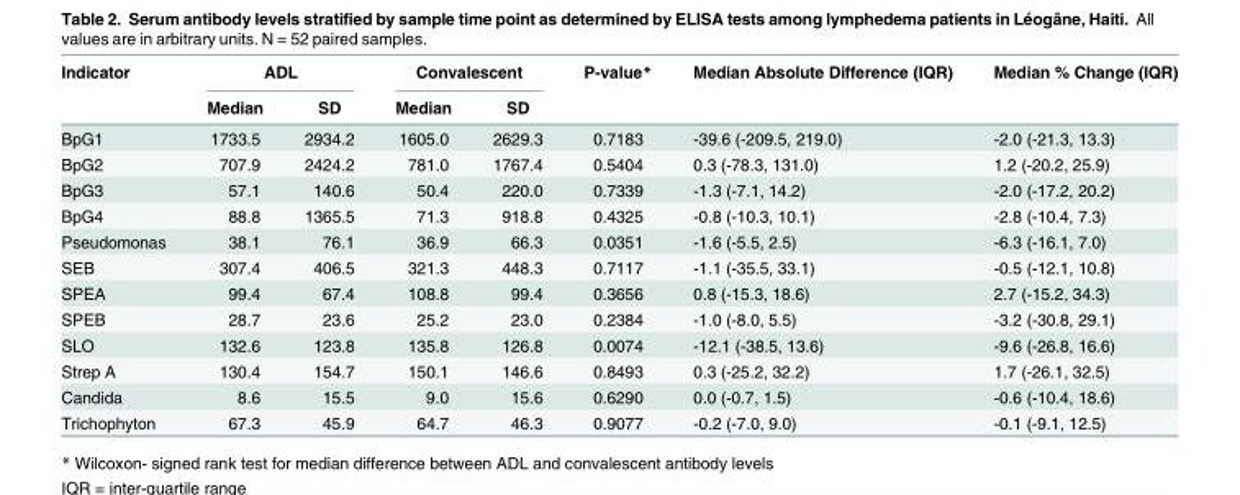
<table><thead><tr><td rowspan="2">Indicator</td><td colspan="2">ADL</td><td colspan="2">Convalescent</td><td rowspan="2">P-value*</td><td rowspan="2">Median Absolute Difference (IQR)</td><td rowspan="2">Median % Change (IQR)</td></tr><tr><td>Median</td><td>SD</td><td>Median</td><td>SD</td></tr></thead><tbody><tr><td>BpG1</td><td>1733.5</td><td>2934.2</td><td>1605.0</td><td>2629.3</td><td>0.7183</td><td>-39.6 (-209.5, 219.0)</td><td>-2.0 (-21.3, 13.3)</td></tr><tr><td>BpG2</td><td>707.9</td><td>2424.2</td><td>781.0</td><td>1767.4</td><td>0.5404</td><td>0.3 (-78.3, 131.0)</td><td>1.2 (-20.2, 25.9)</td></tr><tr><td>BpG3</td><td>57.1</td><td>140.6</td><td>50.4</td><td>220.0</td><td>0.7339</td><td>-1.3 (-7.1, 14.2)</td><td>-2.0 (-17.2, 20.2)</td></tr><tr><td>BpG4</td><td>88.8</td><td>1365.5</td><td>71.3</td><td>918.8</td><td>0.4325</td><td>-0.8 (-10.3, 10.1)</td><td>-2.8 (-10.4, 7.3)</td></tr><tr><td>Pseudomonas</td><td>38.1</td><td>76.1</td><td>36.9</td><td>66.3</td><td>0.0351</td><td>-1.6 (-5.5, 2.5)</td><td>-6.3 (-16.1, 7.0)</td></tr><tr><td>SEB</td><td>307.4</td><td>406.5</td><td>321.3</td><td>448.3</td><td>0.7117</td><td>-1.1 (-35.5, 33.1)</td><td>-0.5 (-12.1, 10.8)</td></tr><tr><td>SPEA</td><td>99.4</td><td>67.4</td><td>108.8</td><td>99.4</td><td>0.3656</td><td>0.8 (-15.3, 18.6)</td><td>2.7 (-15.2, 34.3)</td></tr><tr><td>SPEB</td><td>28.7</td><td>23.6</td><td>25.2</td><td>23.0</td><td>0.2384</td><td>-1.0 (-8.0, 5.5)</td><td>-3.2 (-30.8, 29.1)</td></tr><tr><td>SLO</td><td>132.6</td><td>123.8</td><td>135.8</td><td>126.8</td><td>0.0074</td><td>-12.1 (-38.5, 13.6)</td><td>-9.6 (-26.8, 16.6)</td></tr><tr><td>Strep A</td><td>130.4</td><td>154.7</td><td>150.1</td><td>146.6</td><td>0.8493</td><td>0.3 (-25.2, 32.2)</td><td>1.7 (-26.1, 32.5)</td></tr><tr><td>Candida</td><td>8.6</td><td>15.5</td><td>9.0</td><td>15.6</td><td>0.6290</td><td>0.0 (-0.7, 1.5)</td><td>-0.6 (-10.4, 18.6)</td></tr><tr><td>Trichophyton</td><td>67.3</td><td>45.9</td><td>64.7</td><td>46.3</td><td>0.9077</td><td>-0.2 (-7.0, 9.0)</td><td>-0.1 (-9.1, 12.5)</td></tr></tbody></table>